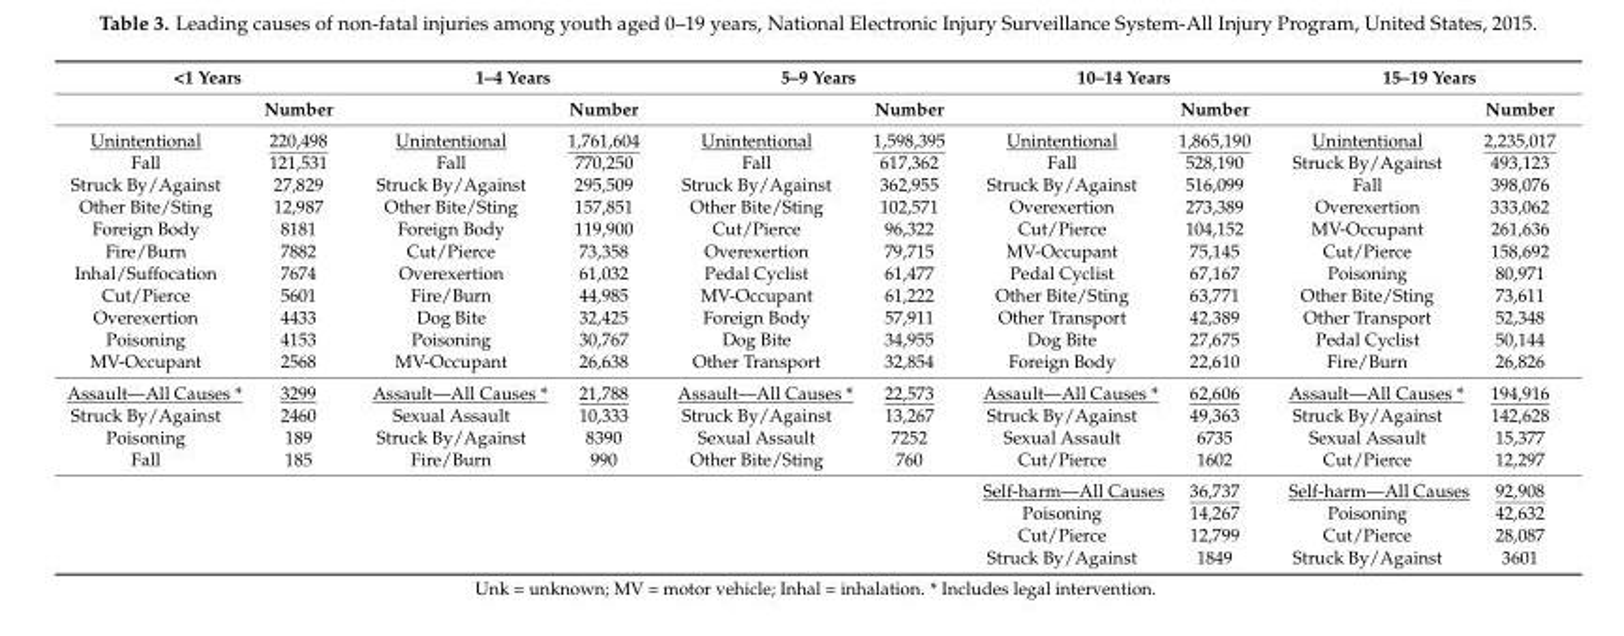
<table><thead><tr><td colspan="2">&lt;1 Years</td><td colspan="2">1–4 Years</td><td colspan="2">5–9 Years</td><td colspan="2">10–14 Years</td><td colspan="2">15–19 Years</td></tr><tr><td></td><td>Number</td><td></td><td>Number</td><td></td><td>Number</td><td></td><td>Number</td><td></td><td>Number</td></tr></thead><tbody><tr><td>Unintentional</td><td>220,498</td><td>Unintentional</td><td>1,761,604</td><td>Unintentional</td><td>1,598,395</td><td>Unintentional</td><td>1,865,190</td><td>Unintentional</td><td>2,235,017</td></tr><tr><td>Fall</td><td>121,531</td><td>Fall</td><td>770,250</td><td>Fall</td><td>617,362</td><td>Fall</td><td>528,190</td><td>Struck By/Against</td><td>493,123</td></tr><tr><td>Struck By/Against</td><td>27,829</td><td>Struck By/Against</td><td>295,509</td><td>Struck By/Against</td><td>362,955</td><td>Struck By/Against</td><td>516,099</td><td>Fall</td><td>398,076</td></tr><tr><td>Other Bite/Sting</td><td>12,987</td><td>Other Bite/Sting</td><td>157,851</td><td>Other Bite/Sting</td><td>102,571</td><td>Overexertion</td><td>273,389</td><td>Overexertion</td><td>333,062</td></tr><tr><td>Foreign Body</td><td>8181</td><td>Foreign Body</td><td>119,900</td><td>Cut/Pierce</td><td>96,322</td><td>Cut/Pierce</td><td>104,152</td><td>MV-Occupant</td><td>261,636</td></tr><tr><td>Fire/Burn</td><td>7882</td><td>Cut/Pierce</td><td>73,358</td><td>Overexertion</td><td>79,715</td><td>MV-Occupant</td><td>75,145</td><td>Cut/Pierce</td><td>158,692</td></tr><tr><td>Inhal/Suffocation</td><td>7674</td><td>Overexertion</td><td>61,032</td><td>Pedal Cyclist</td><td>61,477</td><td>Pedal Cyclist</td><td>67,167</td><td>Poisoning</td><td>80,971</td></tr><tr><td>Cut/Pierce</td><td>5601</td><td>Fire/Burn</td><td>44,985</td><td>MV-Occupant</td><td>61,222</td><td>Other Bite/Sting</td><td>63,771</td><td>Other Bite/Sting</td><td>73,611</td></tr><tr><td>Overexertion</td><td>4433</td><td>Dog Bite</td><td>32,425</td><td>Foreign Body</td><td>57,911</td><td>Other Transport</td><td>42,389</td><td>Other Transport</td><td>52,348</td></tr><tr><td>Poisoning</td><td>4153</td><td>Poisoning</td><td>30,767</td><td>Dog Bite</td><td>34,955</td><td>Dog Bite</td><td>27,675</td><td>Pedal Cyclist</td><td>50,144</td></tr><tr><td>MV-Occupant</td><td>2568</td><td>MV-Occupant</td><td>26,638</td><td>Other Transport</td><td>32,854</td><td>Foreign Body</td><td>22,610</td><td>Fire/Burn</td><td>26,826</td></tr><tr><td>Assault—All Causes *</td><td>3299</td><td>Assault—All Causes *</td><td>21,788</td><td>Assault—All Causes *</td><td>22,573</td><td>Assault—All Causes *</td><td>62,606</td><td>Assault—All Causes *</td><td>194,916</td></tr><tr><td>Struck By/Against</td><td>2460</td><td>Sexual Assault</td><td>10,333</td><td>Struck By/Against</td><td>13,267</td><td>Struck By/Against</td><td>49,363</td><td>Struck By/Against</td><td>142,628</td></tr><tr><td>Poisoning</td><td>189</td><td>Struck By/Against</td><td>8390</td><td>Sexual Assault</td><td>7252</td><td>Sexual Assault</td><td>6735</td><td>Sexual Assault</td><td>15,377</td></tr><tr><td rowspan="5">Fall</td><td>185</td><td>Fire/Burn</td><td>990</td><td>Other Bite/Sting</td><td>760</td><td>Cut/Pierce</td><td>1602</td><td>Cut/Pierce</td><td>12,297</td></tr><tr><td></td><td></td><td></td><td></td><td></td><td>Self-harm—All Causes</td><td>36,737</td><td>Self-harm—All Causes</td><td>92,908</td></tr><tr><td></td><td></td><td></td><td></td><td></td><td>Poisoning</td><td>14,267</td><td>Poisoning</td><td>42,632</td></tr><tr><td></td><td></td><td></td><td></td><td></td><td>Cut/Pierce</td><td>12,799</td><td>Cut/Pierce</td><td>28,087</td></tr><tr><td></td><td></td><td></td><td></td><td></td><td>Struck By/Against</td><td>1849</td><td>Struck By/Against</td><td>3601</td></tr></tbody></table>